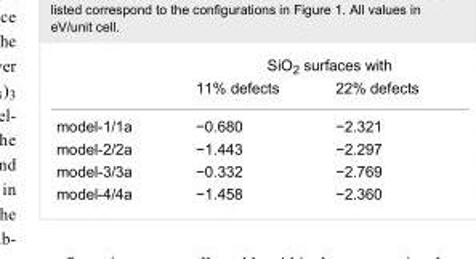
<table><thead><tr><td rowspan="2"></td><td colspan="2">SiO<sub>2</sub> surfaces with</td></tr><tr><td>11% defects</td><td>22% defects</td></tr></thead><tbody><tr><td>model-1/1a</td><td>−0.680</td><td>−2.321</td></tr><tr><td>model-2/2a</td><td>−1.443</td><td>−2.297</td></tr><tr><td>model-3/3a</td><td>−0.332</td><td>−2.769</td></tr><tr><td>model-4/4a</td><td>−1.458</td><td>−2.360</td></tr></tbody></table>